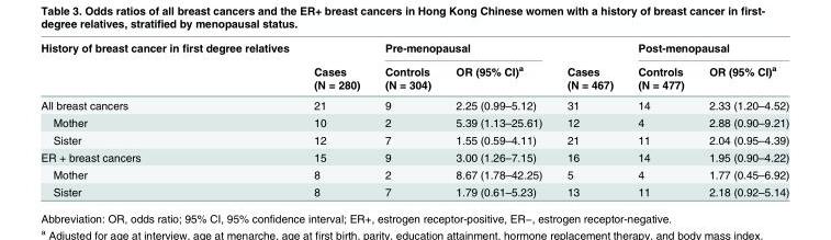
<table><thead><tr><td rowspan="3">History of breast cancer in first degree relatives</td><td rowspan="3">Cases (N = 280)</td><td colspan="2">Pre-menopausal</td><td rowspan="3">Cases (N = 467)</td><td colspan="2">Post-menopausal</td></tr><tr><td rowspan="2">Controls (N = 304)</td><td rowspan="2">OR (95% CI)<sup>a</sup></td><td rowspan="2">Controls (N = 477)</td><td rowspan="2">OR (95% CI)<sup>a</sup></td></tr><tr></tr></thead><tbody><tr><td>All breast cancers</td><td>21</td><td>9</td><td>2.25 (0.99–5.12)</td><td>31</td><td>14</td><td>2.33 (1.20–4.52)</td></tr><tr><td>Mother</td><td>10</td><td>2</td><td>5.39 (1.13–25.61)</td><td>12</td><td>4</td><td>2.88 (0.90–9.21)</td></tr><tr><td>Sister</td><td>12</td><td>7</td><td>1.55 (0.59–4.11)</td><td>21</td><td>11</td><td>2.04 (0.95–4.39)</td></tr><tr><td>ER + breast cancers</td><td>15</td><td>9</td><td>3.00 (1.26–7.15)</td><td>16</td><td>14</td><td>1.95 (0.90–4.22)</td></tr><tr><td>Mother</td><td>8</td><td>2</td><td>8.67 (1.78–42.25)</td><td>5</td><td>4</td><td>1.77 (0.45–6.92)</td></tr><tr><td>Sister</td><td>8</td><td>7</td><td>1.79 (0.61–5.23)</td><td>13</td><td>11</td><td>2.18 (0.92–5.14)</td></tr></tbody></table>